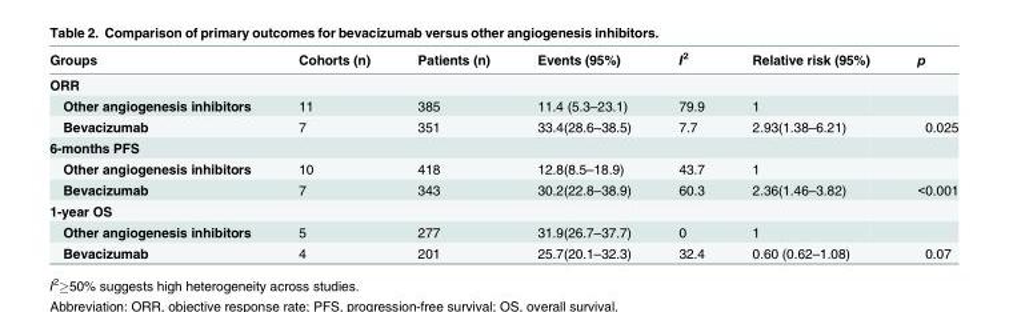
<table><thead><tr><td>Groups</td><td>Cohorts (n)</td><td>Patients (n)</td><td>Events (95%)</td><td>I<sup>2</sup></td><td>Relative risk (95%)</td><td>p</td></tr></thead><tbody><tr><td colspan="7">ORR</td></tr><tr><td>Other angiogenesis inhibitors</td><td>11</td><td>385</td><td>11.4 (5.3–23.1)</td><td>79.9</td><td>1</td><td></td></tr><tr><td>Bevacizumab</td><td>7</td><td>351</td><td>33.4(28.6–38.5)</td><td>7.7</td><td>2.93(1.38–6.21)</td><td>0.025</td></tr><tr><td colspan="7">6-months PFS</td></tr><tr><td>Other angiogenesis inhibitors</td><td>10</td><td>418</td><td>12.8(8.5–18.9)</td><td>43.7</td><td>1</td><td></td></tr><tr><td>Bevacizumab</td><td>7</td><td>343</td><td>30.2(22.8–38.9)</td><td>60.3</td><td>2.36(1.46–3.82)</td><td>&lt;0.001</td></tr><tr><td colspan="7">1-year OS</td></tr><tr><td>Other angiogenesis inhibitors</td><td>5</td><td>277</td><td>31.9(26.7–37.7)</td><td>0</td><td>1</td><td></td></tr><tr><td>Bevacizumab</td><td>4</td><td>201</td><td>25.7(20.1–32.3)</td><td>32.4</td><td>0.60 (0.62–1.08)</td><td>0.07</td></tr></tbody></table>